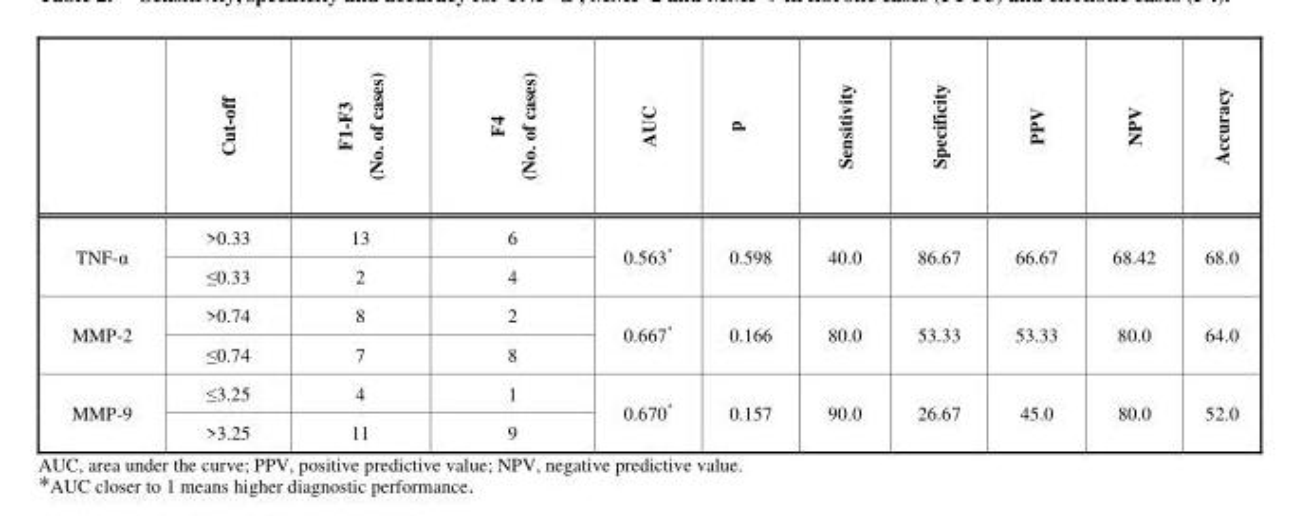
<table><thead><tr><td></td><td>Cut-off</td><td>F1-F3 (No. of cases)</td><td>F4 (No. of cases)</td><td>AUC</td><td>p</td><td>Sensitivity</td><td>Specificity</td><td>PPV</td><td>NPV</td><td>Accuracy</td></tr></thead><tbody><tr><td rowspan="2">TNF-α</td><td>&gt;0.33</td><td>13</td><td>6</td><td rowspan="2">0.563*</td><td rowspan="2">0.598</td><td rowspan="2">40.0</td><td rowspan="2">86.67</td><td rowspan="2">66.67</td><td rowspan="2">68.42</td><td rowspan="2">68.0</td></tr><tr><td>≤0.33</td><td>2</td><td>4</td></tr><tr><td rowspan="2">MMP-2</td><td>&gt;0.74</td><td>8</td><td>2</td><td rowspan="2">0.667*</td><td rowspan="2">0.166</td><td rowspan="2">80.0</td><td rowspan="2">53.33</td><td rowspan="2">53.33</td><td rowspan="2">80.0</td><td rowspan="2">64.0</td></tr><tr><td>≤0.74</td><td>7</td><td>8</td></tr><tr><td rowspan="2">MMP-9</td><td>≤3.25</td><td>4</td><td>1</td><td rowspan="2">0.670*</td><td rowspan="2">0.157</td><td rowspan="2">90.0</td><td rowspan="2">26.67</td><td rowspan="2">45.0</td><td rowspan="2">80.0</td><td rowspan="2">52.0</td></tr><tr><td>&gt;3.25</td><td>11</td><td>9</td></tr></tbody></table>